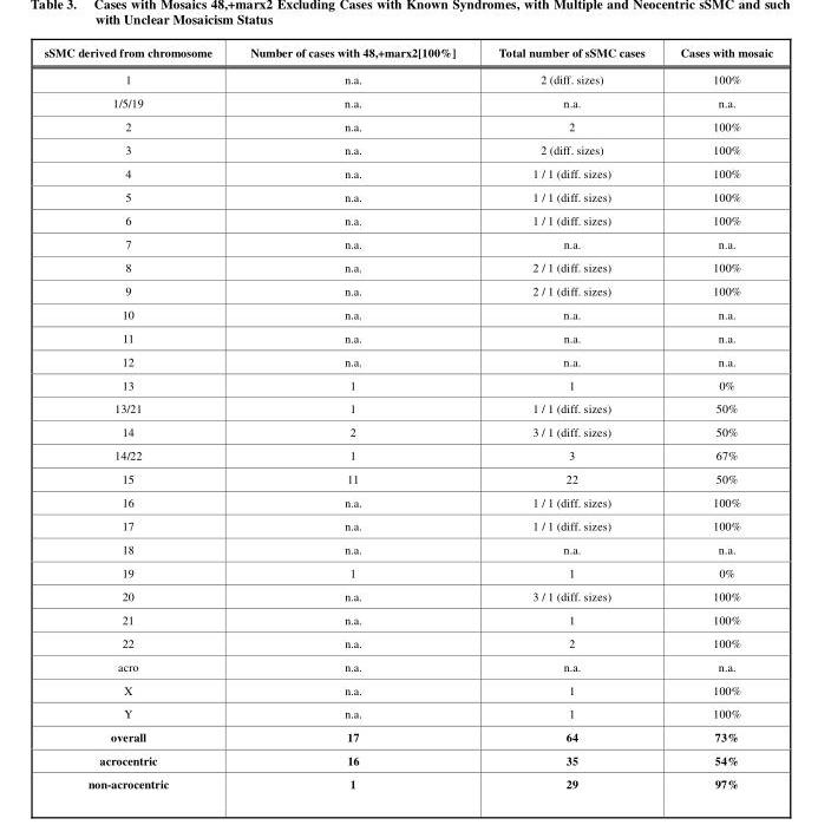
<table><thead><tr><td>sSMC derived from chromosome</td><td>Number of cases with 48,+marx2[100%]</td><td>Total number of sSMC cases</td><td>Cases with mosaic</td></tr></thead><tbody><tr><td>1</td><td>n.a.</td><td>2 (diff. sizes)</td><td>100%</td></tr><tr><td>1/5/19</td><td>n.a.</td><td>n.a.</td><td>n.a.</td></tr><tr><td>2</td><td>n.a.</td><td>2</td><td>100%</td></tr><tr><td>3</td><td>n.a.</td><td>2 (diff. sizes)</td><td>100%</td></tr><tr><td>4</td><td>n.a.</td><td>1 / 1 (diff. sizes)</td><td>100%</td></tr><tr><td>5</td><td>n.a.</td><td>1 / 1 (diff. sizes)</td><td>100%</td></tr><tr><td>6</td><td>n.a.</td><td>1 / 1 (diff. sizes)</td><td>100%</td></tr><tr><td>7</td><td>n.a.</td><td>n.a.</td><td>n.a.</td></tr><tr><td>8</td><td>n.a.</td><td>2 / 1 (diff. sizes)</td><td>100%</td></tr><tr><td>9</td><td>n.a.</td><td>2 / 1 (diff. sizes)</td><td>100%</td></tr><tr><td>10</td><td>n.a.</td><td>n.a.</td><td>n.a.</td></tr><tr><td>11</td><td>n.a.</td><td>n.a.</td><td>n.a.</td></tr><tr><td>12</td><td>n.a.</td><td>n.a.</td><td>n.a.</td></tr><tr><td>13</td><td>1</td><td>1</td><td>0%</td></tr><tr><td>13/21</td><td>1</td><td>1 / 1 (diff. sizes)</td><td>50%</td></tr><tr><td>14</td><td>2</td><td>3 / 1 (diff. sizes)</td><td>50%</td></tr><tr><td>14/22</td><td>1</td><td>3</td><td>67%</td></tr><tr><td>15</td><td>11</td><td>22</td><td>50%</td></tr><tr><td>16</td><td>n.a.</td><td>1 / 1 (diff. sizes)</td><td>100%</td></tr><tr><td>17</td><td>n.a.</td><td>1 / 1 (diff. sizes)</td><td>100%</td></tr><tr><td>18</td><td>n.a.</td><td>n.a.</td><td>n.a.</td></tr><tr><td>19</td><td>1</td><td>1</td><td>0%</td></tr><tr><td>20</td><td>n.a.</td><td>3 / 1 (diff. sizes)</td><td>100%</td></tr><tr><td>21</td><td>n.a.</td><td>1</td><td>100%</td></tr><tr><td>22</td><td>n.a.</td><td>2</td><td>100%</td></tr><tr><td>acro</td><td>n.a.</td><td>n.a.</td><td>n.a.</td></tr><tr><td>X</td><td>n.a.</td><td>1</td><td>100%</td></tr><tr><td>Y</td><td>n.a.</td><td>1</td><td>100%</td></tr><tr><td>overall</td><td>17</td><td>64</td><td>73%</td></tr><tr><td>acrocentric</td><td>16</td><td>35</td><td>54%</td></tr><tr><td>non-acrocentric</td><td>1</td><td>29</td><td>97%</td></tr></tbody></table>